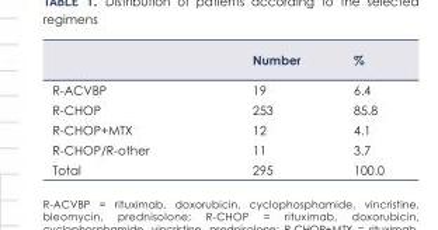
<table><thead><tr><td></td><td>Number</td><td>%</td></tr></thead><tbody><tr><td>R-ACVBP</td><td>19</td><td>6.4</td></tr><tr><td>R-CHOP</td><td>253</td><td>85.8</td></tr><tr><td>R-CHOP+MTX</td><td>12</td><td>4.1</td></tr><tr><td>R-CHOP/R-other</td><td>11</td><td>3.7</td></tr><tr><td>Total</td><td>295</td><td>100.0</td></tr></tbody></table>